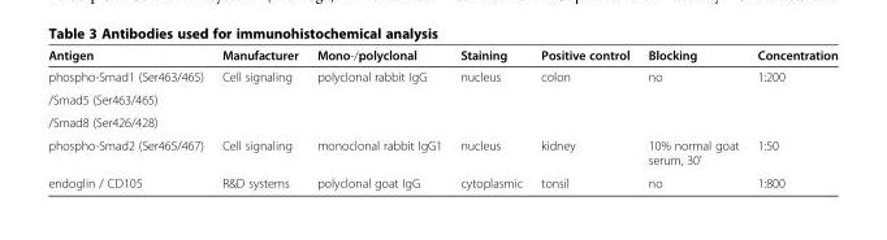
<table><thead><tr><td>Antigen</td><td>Manufacturer</td><td>Mono-/polyclonal</td><td>Staining</td><td>Positive control</td><td>Blocking</td><td>Concentration</td></tr></thead><tbody><tr><td>phospho-Smad1 (Ser463/465)</td><td rowspan="3">Cell signaling</td><td rowspan="3">polyclonal rabbit IgG</td><td rowspan="3">nucleus</td><td rowspan="3">colon</td><td rowspan="3">no</td><td rowspan="3">1:200</td></tr><tr><td>/Smad5 (Ser463/465)</td></tr><tr><td>/Smad8 (Ser426/428)</td></tr><tr><td>phospho-Smad2 (Ser465/467)</td><td>Cell signaling</td><td>monoclonal rabbit IgG1</td><td>nucleus</td><td>kidney</td><td>10% normal goat serum, 30’</td><td>1:50</td></tr><tr><td>endoglin / CD105</td><td>R&amp;D systems</td><td>polyclonal goat IgG</td><td>cytoplasmic</td><td>tonsil</td><td>no</td><td>1:800</td></tr></tbody></table>